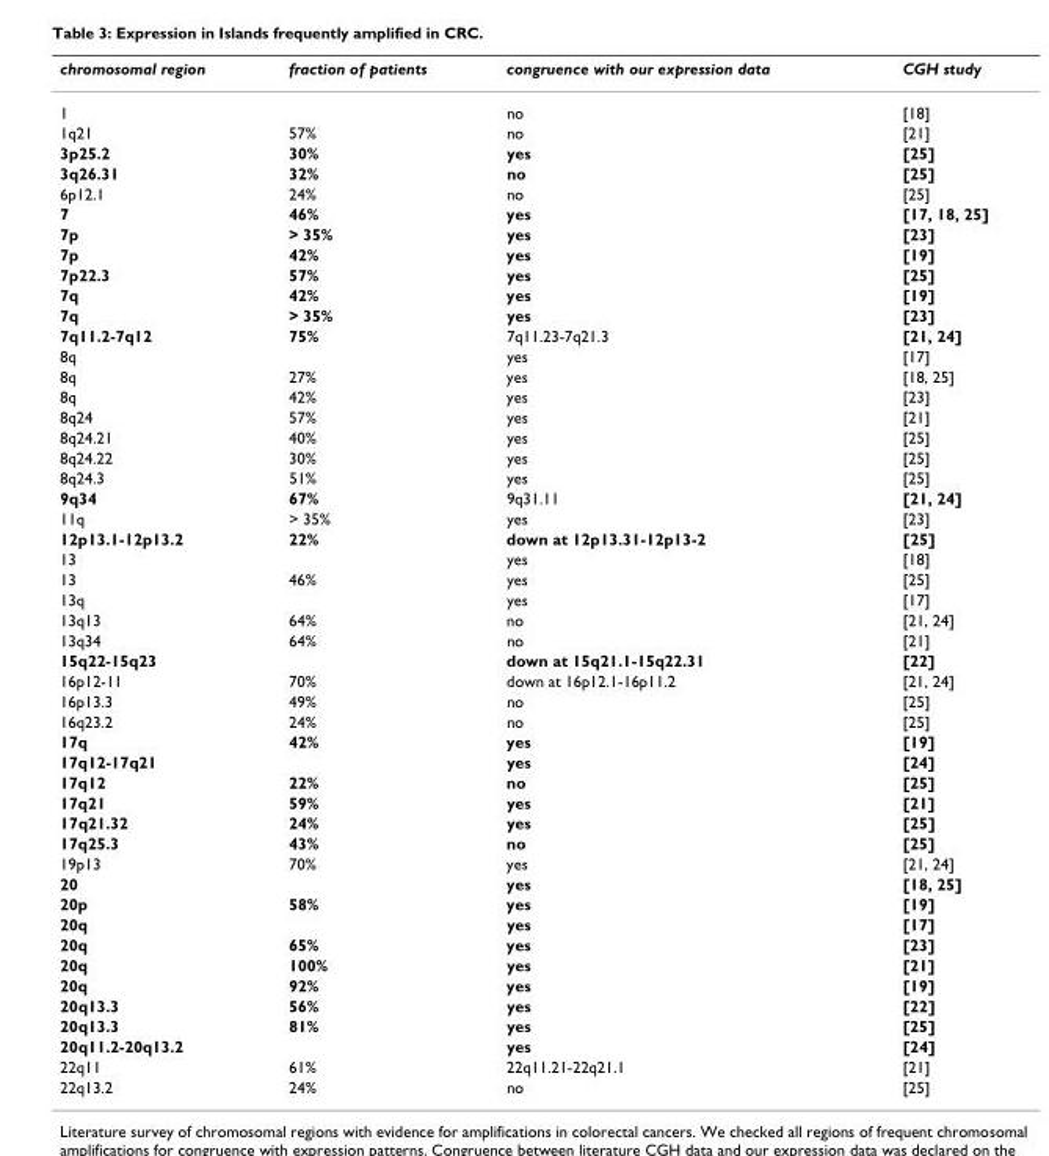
<table><thead><tr><td>chromosomal region</td><td>fraction of patients</td><td>congruence with our expression data</td><td>CGH study</td></tr></thead><tbody><tr><td>1</td><td></td><td>no</td><td>[18]</td></tr><tr><td>1q21</td><td>57%</td><td>no</td><td>[21]</td></tr><tr><td>3p25.2</td><td>30%</td><td>yes</td><td>[25]</td></tr><tr><td>3q26.31</td><td>32%</td><td>no</td><td>[25]</td></tr><tr><td>6p12.1</td><td>24%</td><td>no</td><td>[25]</td></tr><tr><td>7</td><td>46%</td><td>yes</td><td>[17, 18, 25]</td></tr><tr><td>7p</td><td>&gt; 35%</td><td>yes</td><td>[23]</td></tr><tr><td>7p</td><td>42%</td><td>yes</td><td>[19]</td></tr><tr><td>7p22.3</td><td>57%</td><td>yes</td><td>[25]</td></tr><tr><td>7q</td><td>42%</td><td>yes</td><td>[19]</td></tr><tr><td>7q</td><td>&gt; 35%</td><td>yes</td><td>[23]</td></tr><tr><td>7q11.2-7q12</td><td>75%</td><td>7q11.23-7q21.3</td><td>[21, 24]</td></tr><tr><td>8q</td><td></td><td>yes</td><td>[17]</td></tr><tr><td>8q</td><td>27%</td><td>yes</td><td>[18, 25]</td></tr><tr><td>8q</td><td>42%</td><td>yes</td><td>[23]</td></tr><tr><td>8q24</td><td>57%</td><td>yes</td><td>[21]</td></tr><tr><td>8q24.21</td><td>40%</td><td>yes</td><td>[25]</td></tr><tr><td>8q24.22</td><td>30%</td><td>yes</td><td>[25]</td></tr><tr><td>8q24.3</td><td>51%</td><td>yes</td><td>[25]</td></tr><tr><td>9q34</td><td>67%</td><td>9q31.11</td><td>[21, 24]</td></tr><tr><td>11q</td><td>&gt; 35%</td><td>yes</td><td>[23]</td></tr><tr><td>12p13.1-12p13.2</td><td>22%</td><td>down at 12p13.31-12p13-2</td><td>[25]</td></tr><tr><td>13</td><td></td><td>yes</td><td>[18]</td></tr><tr><td>13</td><td>46%</td><td>yes</td><td>[25]</td></tr><tr><td>13q</td><td></td><td>yes</td><td>[17]</td></tr><tr><td>13q13</td><td>64%</td><td>no</td><td>[21, 24]</td></tr><tr><td>13q34</td><td>64%</td><td>no</td><td>[21]</td></tr><tr><td>15q22-15q23</td><td></td><td>down at 15q21.1-15q22.31</td><td>[22]</td></tr><tr><td>16p12-11</td><td>70%</td><td>down at 16p12.1-16p11.2</td><td>[21, 24]</td></tr><tr><td>16p13.3</td><td>49%</td><td>no</td><td>[25]</td></tr><tr><td>16q23.2</td><td>24%</td><td>no</td><td>[25]</td></tr><tr><td>17q</td><td>42%</td><td>yes</td><td>[19]</td></tr><tr><td>17q12-17q21</td><td></td><td>yes</td><td>[24]</td></tr><tr><td>17q12</td><td>22%</td><td>no</td><td>[25]</td></tr><tr><td>17q21</td><td>59%</td><td>yes</td><td>[21]</td></tr><tr><td>17q21.32</td><td>24%</td><td>yes</td><td>[25]</td></tr><tr><td>17q25.3</td><td>43%</td><td>no</td><td>[25]</td></tr><tr><td>19p13</td><td>70%</td><td>yes</td><td>[21, 24]</td></tr><tr><td>20</td><td></td><td>yes</td><td>[18, 25]</td></tr><tr><td>20p</td><td>58%</td><td>yes</td><td>[19]</td></tr><tr><td>20q</td><td></td><td>yes</td><td>[17]</td></tr><tr><td>20q</td><td>65%</td><td>yes</td><td>[23]</td></tr><tr><td>20q</td><td>100%</td><td>yes</td><td>[21]</td></tr><tr><td>20q</td><td>92%</td><td>yes</td><td>[19]</td></tr><tr><td>20q13.3</td><td>56%</td><td>yes</td><td>[22]</td></tr><tr><td>20q13.3</td><td>81%</td><td>yes</td><td>[25]</td></tr><tr><td>20q11.2-20q13.2</td><td></td><td>yes</td><td>[24]</td></tr><tr><td>22q11</td><td>61%</td><td>22q11.21-22q21.1</td><td>[21]</td></tr><tr><td>22q13.2</td><td>24%</td><td>no</td><td>[25]</td></tr></tbody></table>